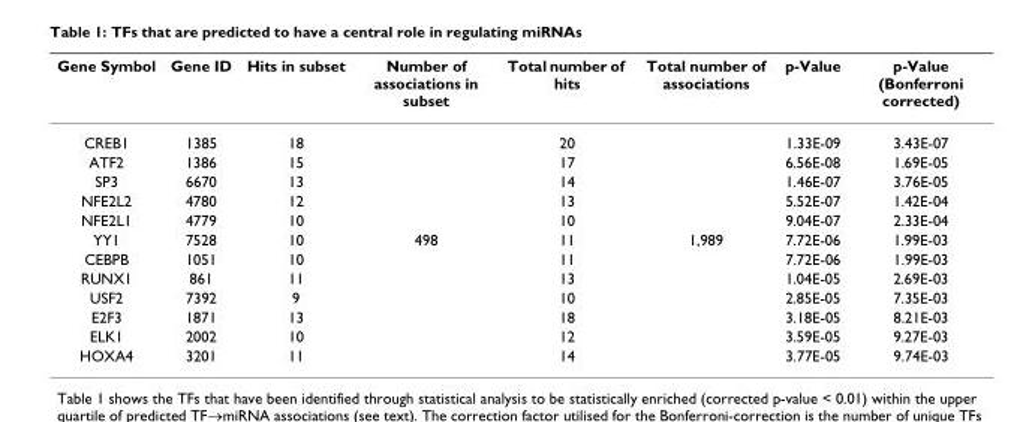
<table><thead><tr><td>Gene Symbol</td><td>Gene ID</td><td>Hits in subset</td><td>Number of associations in subset</td><td>Total number of hits</td><td>Total number of associations</td><td>p-Value</td><td>p-Value (Bonferroni corrected)</td></tr></thead><tbody><tr><td>CREB1</td><td>1385</td><td>18</td><td></td><td>20</td><td></td><td>1.33E-09</td><td>3.43E-07</td></tr><tr><td>ATF2</td><td>1386</td><td>15</td><td></td><td>17</td><td></td><td>6.56E-08</td><td>1.69E-05</td></tr><tr><td>SP3</td><td>6670</td><td>13</td><td></td><td>14</td><td></td><td>1.46E-07</td><td>3.76E-05</td></tr><tr><td>NFE2L2</td><td>4780</td><td>12</td><td></td><td>13</td><td></td><td>5.52E-07</td><td>1.42E-04</td></tr><tr><td>NFE2L1</td><td>4779</td><td>10</td><td></td><td>10</td><td></td><td>9.04E-07</td><td>2.33E-04</td></tr><tr><td>YY1</td><td>7528</td><td>10</td><td>498</td><td>11</td><td>1,989</td><td>7.72E-06</td><td>1.99E-03</td></tr><tr><td>CEBPB</td><td>1051</td><td>10</td><td></td><td>11</td><td></td><td>7.72E-06</td><td>1.99E-03</td></tr><tr><td>RUNX1</td><td>861</td><td>11</td><td></td><td>13</td><td></td><td>1.04E-05</td><td>2.69E-03</td></tr><tr><td>USF2</td><td>7392</td><td>9</td><td></td><td>10</td><td></td><td>2.85E-05</td><td>7.35E-03</td></tr><tr><td>E2F3</td><td>1871</td><td>13</td><td></td><td>18</td><td></td><td>3.18E-05</td><td>8.21E-03</td></tr><tr><td>ELK1</td><td>2002</td><td>10</td><td></td><td>12</td><td></td><td>3.59E-05</td><td>9.27E-03</td></tr><tr><td>HOXA4</td><td>3201</td><td>11</td><td></td><td>14</td><td></td><td>3.77E-05</td><td>9.74E-03</td></tr></tbody></table>